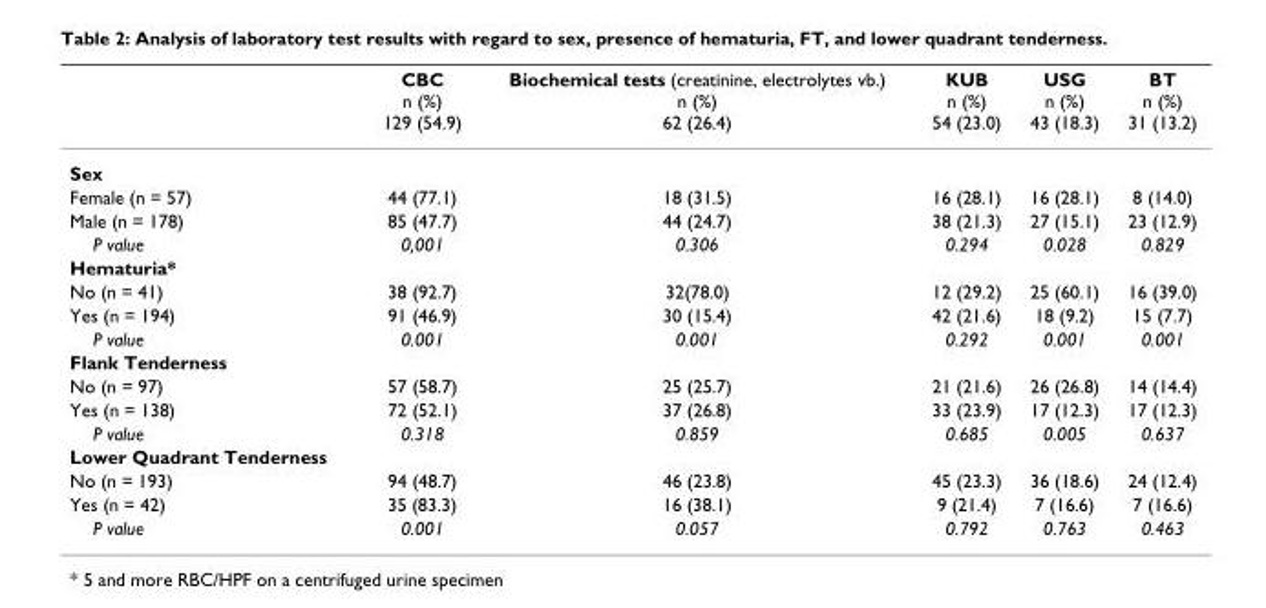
<table><thead><tr><td></td><td>CBC n (%) 129 (54.9)</td><td>Biochemical tests (creatinine, electrolytes vb.) n (%) 62 (26.4)</td><td>KUB n (%) 54 (23.0)</td><td>USG n (%) 43 (18.3)</td><td>BT n (%) 31 (13.2)</td></tr></thead><tbody><tr><td colspan="6">Sex</td></tr><tr><td>Female (n = 57)</td><td>44 (77.1)</td><td>18 (31.5)</td><td>16 (28.1)</td><td>16 (28.1)</td><td>8 (14.0)</td></tr><tr><td>Male (n = 178)</td><td>85 (47.7)</td><td>44 (24.7)</td><td>38 (21.3)</td><td>27 (15.1)</td><td>23 (12.9)</td></tr><tr><td>P value</td><td>0,001</td><td>0.306</td><td>0.294</td><td>0.028</td><td>0.829</td></tr><tr><td colspan="6">Hematuria*</td></tr><tr><td>No (n = 41)</td><td>38 (92.7)</td><td>32(78.0)</td><td>12 (29.2)</td><td>25 (60.1)</td><td>16 (39.0)</td></tr><tr><td>Yes (n = 194)</td><td>91 (46.9)</td><td>30 (15.4)</td><td>42 (21.6)</td><td>18 (9.2)</td><td>15 (7.7)</td></tr><tr><td>P value</td><td>0.001</td><td>0.001</td><td>0.292</td><td>0.001</td><td>0.001</td></tr><tr><td colspan="6">Flank Tenderness</td></tr><tr><td>No (n = 97)</td><td>57 (58.7)</td><td>25 (25.7)</td><td>21 (21.6)</td><td>26 (26.8)</td><td>14 (14.4)</td></tr><tr><td>Yes (n = 138)</td><td>72 (52.1)</td><td>37 (26.8)</td><td>33 (23.9)</td><td>17 (12.3)</td><td>17 (12.3)</td></tr><tr><td>P value</td><td>0.318</td><td>0.859</td><td>0.685</td><td>0.005</td><td>0.637</td></tr><tr><td colspan="6">Lower Quadrant Tenderness</td></tr><tr><td>No (n = 193)</td><td>94 (48.7)</td><td>46 (23.8)</td><td>45 (23.3)</td><td>36 (18.6)</td><td>24 (12.4)</td></tr><tr><td>Yes (n = 42)</td><td>35 (83.3)</td><td>16 (38.1)</td><td>9 (21.4)</td><td>7 (16.6)</td><td>7 (16.6)</td></tr><tr><td>P value</td><td>0.001</td><td>0.057</td><td>0.792</td><td>0.763</td><td>0.463</td></tr></tbody></table>